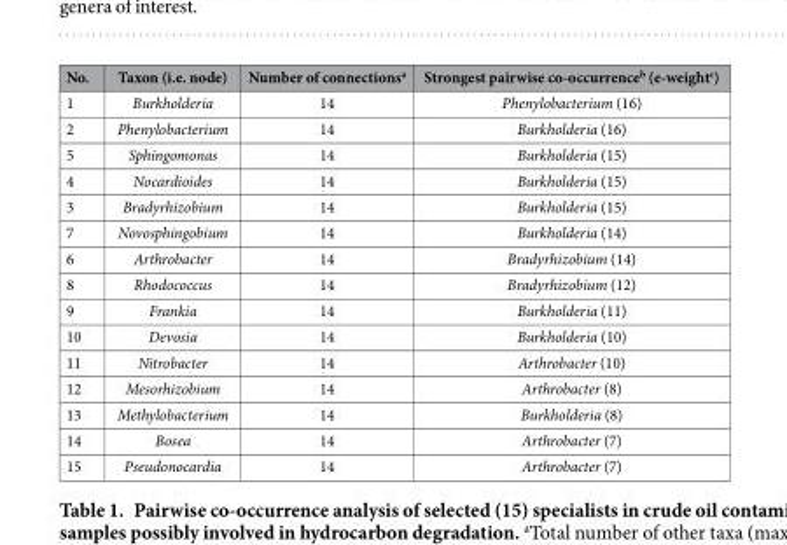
<table><thead><tr><td>No.</td><td>Taxon (i.e. node)</td><td>Number of connections<sup>a</sup></td><td>Strongest pairwise co-occurrence<sup>b</sup> (e-weight<sup>c</sup>)</td></tr></thead><tbody><tr><td>1</td><td>Burkholderia</td><td>14</td><td>Phenylobacterium (16)</td></tr><tr><td>2</td><td>Phenylobacterium</td><td>14</td><td>Burkholderia (16)</td></tr><tr><td>5</td><td>Sphingomonas</td><td>14</td><td>Burkholderia (15)</td></tr><tr><td>4</td><td>Nocardioides</td><td>14</td><td>Burkholderia (15)</td></tr><tr><td>3</td><td>Bradyrhizobium</td><td>14</td><td>Burkholderia (15)</td></tr><tr><td>7</td><td>Novosphingobium</td><td>14</td><td>Burkholderia (14)</td></tr><tr><td>6</td><td>Arthrobacter</td><td>14</td><td>Bradyrhizobium (14)</td></tr><tr><td>8</td><td>Rhodococcus</td><td>14</td><td>Bradyrhizobium (12)</td></tr><tr><td>9</td><td>Frankia</td><td>14</td><td>Burkholderia (11)</td></tr><tr><td>10</td><td>Devosia</td><td>14</td><td>Burkholderia (10)</td></tr><tr><td>11</td><td>Nitrobacter</td><td>14</td><td>Arthrobacter (10)</td></tr><tr><td>12</td><td>Mesorhizobium</td><td>14</td><td>Arthrobacter (8)</td></tr><tr><td>13</td><td>Methylobacterium</td><td>14</td><td>Burkholderia (8)</td></tr><tr><td>14</td><td>Bosea</td><td>14</td><td>Arthrobacter (7)</td></tr><tr><td>15</td><td>Pseudonocardia</td><td>14</td><td>Arthrobacter (7)</td></tr></tbody></table>